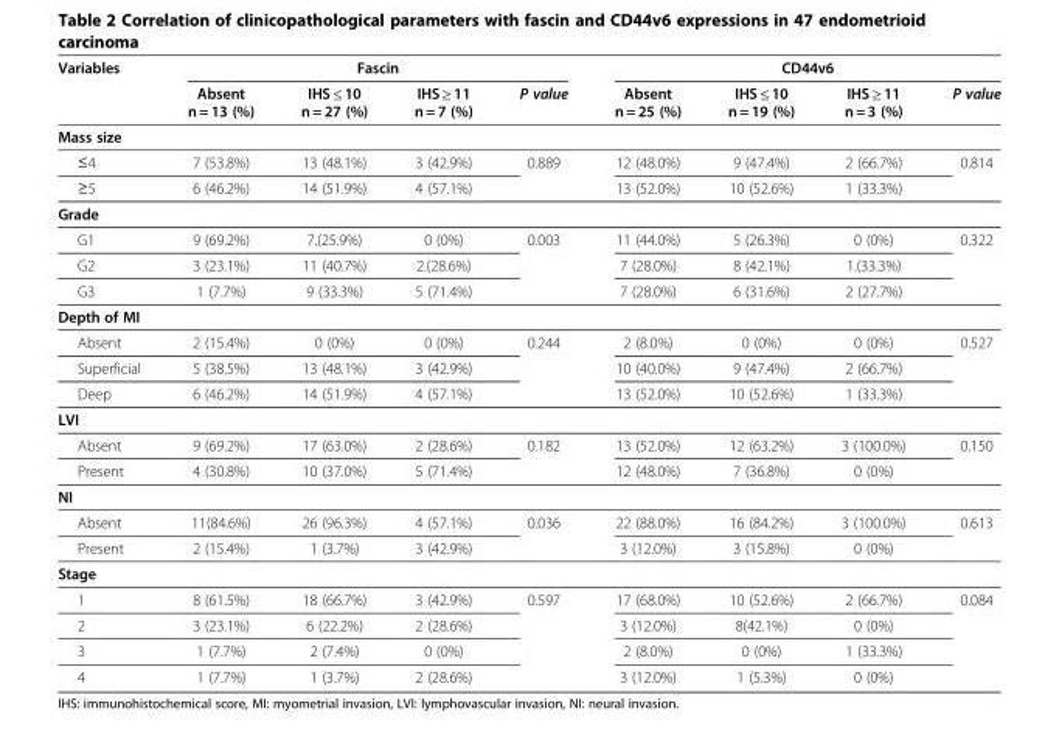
<table><thead><tr><td rowspan="2">Variables</td><td colspan="4">Fascin</td><td colspan="4">CD44v6</td></tr><tr><td>Absent n = 13 (%)</td><td>IHS ≤ 10 n = 27 (%)</td><td>IHS ≥ 11 n = 7 (%)</td><td>P value</td><td>Absent n = 25 (%)</td><td>IHS ≤ 10 n = 19 (%)</td><td>IHS ≥ 11 n = 3 (%)</td><td>P value</td></tr></thead><tbody><tr><td colspan="9">Mass size</td></tr><tr><td>≤4</td><td>7 (53.8%)</td><td>13 (48.1%)</td><td>3 (42.9%)</td><td rowspan="2">0.889</td><td>12 (48.0%)</td><td>9 (47.4%)</td><td>2 (66.7%)</td><td rowspan="2">0.814</td></tr><tr><td>≥5</td><td>6 (46.2%)</td><td>14 (51.9%)</td><td>4 (57.1%)</td><td>13 (52.0%)</td><td>10 (52.6%)</td><td>1 (33.3%)</td></tr><tr><td colspan="9">Grade</td></tr><tr><td>G1</td><td>9 (69.2%)</td><td>7.(25.9%)</td><td>0 (0%)</td><td rowspan="3">0.003</td><td>11 (44.0%)</td><td>5 (26.3%)</td><td>0 (0%)</td><td rowspan="3">0.322</td></tr><tr><td>G2</td><td>3 (23.1%)</td><td>11 (40.7%)</td><td>2.(28.6%)</td><td>7 (28.0%)</td><td>8 (42.1%)</td><td>1.(33.3%)</td></tr><tr><td>G3</td><td>1 (7.7%)</td><td>9 (33.3%)</td><td>5 (71.4%)</td><td>7 (28.0%)</td><td>6 (31.6%)</td><td>2 (27.7%)</td></tr><tr><td colspan="9">Depth of MI</td></tr><tr><td>Absent</td><td>2 (15.4%)</td><td>0 (0%)</td><td>0 (0%)</td><td rowspan="3">0.244</td><td>2 (8.0%)</td><td>0 (0%)</td><td>0 (0%)</td><td rowspan="3">0.527</td></tr><tr><td>Superficial</td><td>5 (38.5%)</td><td>13 (48.1%)</td><td>3 (42.9%)</td><td>10 (40.0%)</td><td>9 (47.4%)</td><td>2 (66.7%)</td></tr><tr><td>Deep</td><td>6 (46.2%)</td><td>14 (51.9%)</td><td>4 (57.1%)</td><td>13 (52.0%)</td><td>10 (52.6%)</td><td>1 (33.3%)</td></tr><tr><td colspan="9">LVI</td></tr><tr><td>Absent</td><td>9 (69.2%)</td><td>17 (63.0%)</td><td>2 (28.6%)</td><td rowspan="2">0.182</td><td>13 (52.0%)</td><td>12 (63.2%)</td><td>3 (100.0%)</td><td rowspan="2">0.150</td></tr><tr><td>Present</td><td>4 (30.8%)</td><td>10 (37.0%)</td><td>5 (71.4%)</td><td>12 (48.0%)</td><td>7 (36.8%)</td><td>0 (0%)</td></tr><tr><td colspan="9">NI</td></tr><tr><td>Absent</td><td>11(84.6%)</td><td>26 (96.3%)</td><td>4 (57.1%)</td><td rowspan="2">0.036</td><td>22 (88.0%)</td><td>16 (84.2%)</td><td>3 (100.0%)</td><td rowspan="2">0.613</td></tr><tr><td>Present</td><td>2 (15.4%)</td><td>1 (3.7%)</td><td>3 (42.9%)</td><td>3 (12.0%)</td><td>3 (15.8%)</td><td>0 (0%)</td></tr><tr><td colspan="9">Stage</td></tr><tr><td>1</td><td>8 (61.5%)</td><td>18 (66.7%)</td><td>3 (42.9%)</td><td rowspan="4">0.597</td><td>17 (68.0%)</td><td>10 (52.6%)</td><td>2 (66.7%)</td><td rowspan="4">0.084</td></tr><tr><td>2</td><td>3 (23.1%)</td><td>6 (22.2%)</td><td>2 (28.6%)</td><td>3 (12.0%)</td><td>8(42.1%)</td><td>0 (0%)</td></tr><tr><td>3</td><td>1 (7.7%)</td><td>2 (7.4%)</td><td>0 (0%)</td><td>2 (8.0%)</td><td>0 (0%)</td><td>1 (33.3%)</td></tr><tr><td>4</td><td>1 (7.7%)</td><td>1 (3.7%)</td><td>2 (28.6%)</td><td>3 (12.0%)</td><td>1 (5.3%)</td><td>0 (0%)</td></tr></tbody></table>